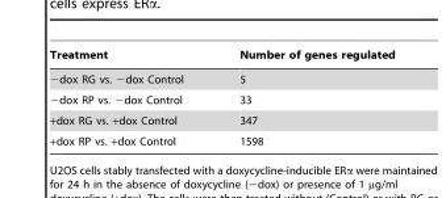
<table><thead><tr><td>Treatment</td><td>Number of genes regulated</td></tr></thead><tbody><tr><td>−dox RG vs. −dox Control</td><td>5</td></tr><tr><td>−dox RP vs. −dox Control</td><td>33</td></tr><tr><td>+dox RG vs. +dox Control</td><td>347</td></tr><tr><td>+dox RP vs. +dox Control</td><td>1598</td></tr></tbody></table>